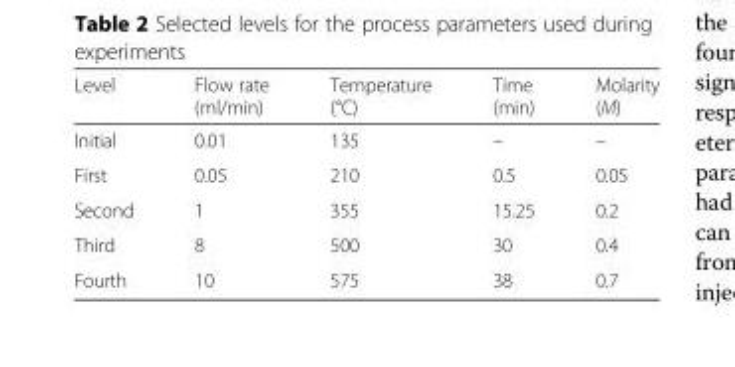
<table><thead><tr><td>Level</td><td>Flow rate (ml/min)</td><td>Temperature (°C)</td><td>Time (min)</td><td>Molarity (M)</td></tr></thead><tbody><tr><td>Initial</td><td>0.01</td><td>135</td><td>–</td><td>–</td></tr><tr><td>First</td><td>0.05</td><td>210</td><td>0.5</td><td>0.05</td></tr><tr><td>Second</td><td>1</td><td>355</td><td>15.25</td><td>0.2</td></tr><tr><td>Third</td><td>8</td><td>500</td><td>30</td><td>0.4</td></tr><tr><td>Fourth</td><td>10</td><td>575</td><td>38</td><td>0.7</td></tr></tbody></table>